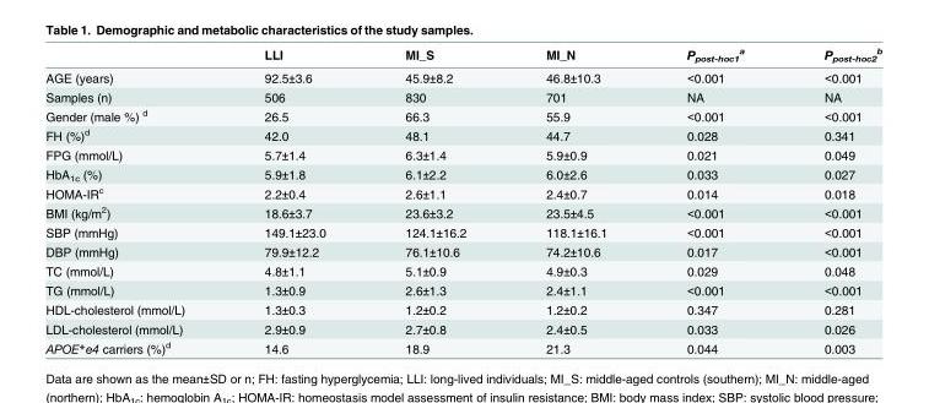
<table><thead><tr><td></td><td>LLI</td><td>MI_S</td><td>MI_N</td><td>P<sub>post-hoc1</sub> <sup>a</sup></td><td>P<sub>post-hoc2</sub> <sup>b</sup></td></tr></thead><tbody><tr><td>AGE (years)</td><td>92.5±3.6</td><td>45.9±8.2</td><td>46.8±10.3</td><td>&lt;0.001</td><td>&lt;0.001</td></tr><tr><td>Samples (n)</td><td>506</td><td>830</td><td>701</td><td>NA</td><td>NA</td></tr><tr><td>Gender (male %) <sup>d</sup></td><td>26.5</td><td>66.3</td><td>55.9</td><td>&lt;0.001</td><td>&lt;0.001</td></tr><tr><td>FH (%)<sup>d</sup></td><td>42.0</td><td>48.1</td><td>44.7</td><td>0.028</td><td>0.341</td></tr><tr><td>FPG (mmol/L)</td><td>5.7±1.4</td><td>6.3±1.4</td><td>5.9±0.9</td><td>0.021</td><td>0.049</td></tr><tr><td>HbA<sub>1c</sub> (%)</td><td>5.9±1.8</td><td>6.1±2.2</td><td>6.0±2.6</td><td>0.033</td><td>0.027</td></tr><tr><td>HOMA-IR<sup>c</sup></td><td>2.2±0.4</td><td>2.6±1.1</td><td>2.4±0.7</td><td>0.014</td><td>0.018</td></tr><tr><td>BMI (kg/m<sup>2</sup>)</td><td>18.6±3.7</td><td>23.6±3.2</td><td>23.5±4.5</td><td>&lt;0.001</td><td>&lt;0.001</td></tr><tr><td>SBP (mmHg)</td><td>149.1±23.0</td><td>124.1±16.2</td><td>118.1±16.1</td><td>&lt;0.001</td><td>&lt;0.001</td></tr><tr><td>DBP (mmHg)</td><td>79.9±12.2</td><td>76.1±10.6</td><td>74.2±10.6</td><td>0.017</td><td>&lt;0.001</td></tr><tr><td>TC (mmol/L)</td><td>4.8±1.1</td><td>5.1±0.9</td><td>4.9±0.3</td><td>0.029</td><td>0.048</td></tr><tr><td>TG (mmol/L)</td><td>1.3±0.9</td><td>2.6±1.3</td><td>2.4±1.1</td><td>&lt;0.001</td><td>&lt;0.001</td></tr><tr><td>HDL-cholesterol (mmol/L)</td><td>1.3±0.3</td><td>1.2±0.2</td><td>1.2±0.2</td><td>0.347</td><td>0.281</td></tr><tr><td>LDL-cholesterol (mmol/L)</td><td>2.9±0.9</td><td>2.7±0.8</td><td>2.4±0.5</td><td>0.033</td><td>0.026</td></tr><tr><td>APOE*e4 carriers (%)<sup>d</sup></td><td>14.6</td><td>18.9</td><td>21.3</td><td>0.044</td><td>0.003</td></tr></tbody></table>